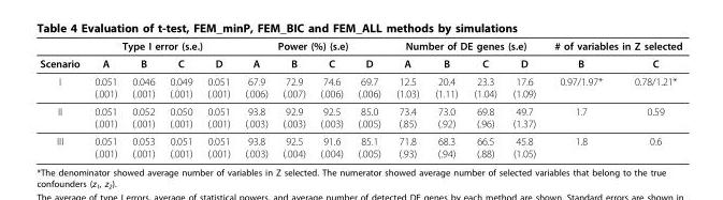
<table><thead><tr><td rowspan="2">Scenario</td><td colspan="4">Type I error (s.e.)</td><td colspan="4">Power (%) (s.e)</td><td colspan="4">Number of DE genes (s.e)</td><td colspan="2"># of variables in Z selected</td></tr><tr><td>A</td><td>B</td><td>C</td><td>D</td><td>A</td><td>B</td><td>C</td><td>D</td><td>A</td><td>B</td><td>C</td><td>D</td><td>B</td><td>C</td></tr></thead><tbody><tr><td>I</td><td>0.051 (.001)</td><td>0.046 (.001)</td><td>0.049 (.001)</td><td>0.051 (.001)</td><td>67.9 (.006)</td><td>72.9 (.007)</td><td>74.6 (.006)</td><td>69.7 (.006)</td><td>12.5 (1.03)</td><td>20.4 (1.11)</td><td>23.3 (1.04)</td><td>17.6 (1.09)</td><td>0.97/1.97*</td><td>0.78/1.21*</td></tr><tr><td>II</td><td>0.051 (.001)</td><td>0.052 (.001)</td><td>0.050 (.001)</td><td>0.051 (.001)</td><td>93.8 (.003)</td><td>92.9 (.003)</td><td>92.5 (.003)</td><td>85.0 (.005)</td><td>73.4 (.85)</td><td>73.0 (.92)</td><td>69.8 (.96)</td><td>49.7 (1.37)</td><td>1.7</td><td>0.59</td></tr><tr><td>III</td><td>0.051 (.001)</td><td>0.053 (.001)</td><td>0.051 (.001)</td><td>0.051 (.001)</td><td>93.8 (.003)</td><td>92.5 (.004)</td><td>91.6 (.004)</td><td>85.1 (.005)</td><td>71.8 (.93)</td><td>68.3 (.94)</td><td>66.5 (.88)</td><td>45.8 (1.05)</td><td>1.8</td><td>0.6</td></tr></tbody></table>